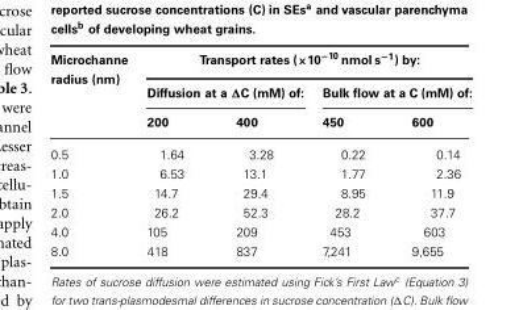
<table><thead><tr><td rowspan="3">Microchanne radius (nm)</td><td colspan="4">Transport rates (×10<sup>−10</sup> nmol s<sup>−1</sup>) by:</td></tr><tr><td colspan="2">Diffusion at a ΔC (mM) of:</td><td colspan="2">Bulk flow at a C (mM) of:</td></tr><tr><td>200</td><td>400</td><td>450</td><td>600</td></tr></thead><tbody><tr><td>0.5</td><td>1.64</td><td>3.28</td><td>0.22</td><td>0.14</td></tr><tr><td>1.0</td><td>6.53</td><td>13.1</td><td>1.77</td><td>2.36</td></tr><tr><td>1.5</td><td>14.7</td><td>29.4</td><td>8.95</td><td>11.9</td></tr><tr><td>2.0</td><td>26.2</td><td>52.3</td><td>28.2</td><td>37.7</td></tr><tr><td>4.0</td><td>105</td><td>209</td><td>453</td><td>603</td></tr><tr><td>8.0</td><td>418</td><td>837</td><td>7,241</td><td>9,655</td></tr></tbody></table>